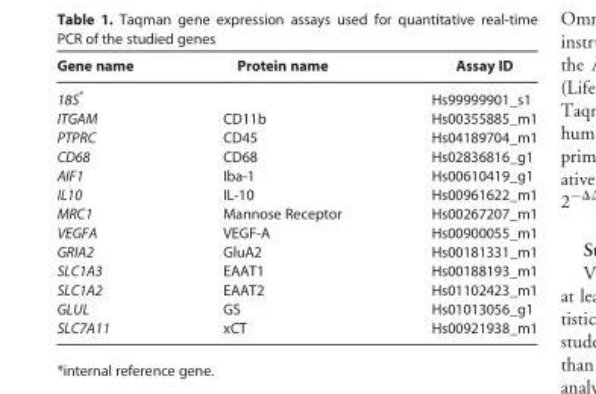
<table><thead><tr><td>Gene name</td><td>Protein name</td><td>Assay ID</td></tr></thead><tbody><tr><td>18S*</td><td></td><td>Hs99999901_s1</td></tr><tr><td>ITGAM</td><td>CD11b</td><td>Hs00355885_m1</td></tr><tr><td>PTPRC</td><td>CD45</td><td>Hs04189704_m1</td></tr><tr><td>CD68</td><td>CD68</td><td>Hs02836816_g1</td></tr><tr><td>AIF1</td><td>Iba-1</td><td>Hs00610419_g1</td></tr><tr><td>IL10</td><td>IL-10</td><td>Hs00961622_m1</td></tr><tr><td>MRC1</td><td>Mannose Receptor</td><td>Hs00267207_m1</td></tr><tr><td>VEGFA</td><td>VEGF-A</td><td>Hs00900055_m1</td></tr><tr><td>GRIA2</td><td>GluA2</td><td>Hs00181331_m1</td></tr><tr><td>SLC1A3</td><td>EAAT1</td><td>Hs00188193_m1</td></tr><tr><td>SLC1A2</td><td>EAAT2</td><td>Hs01102423_m1</td></tr><tr><td>GLUL</td><td>GS</td><td>Hs01013056_g1</td></tr><tr><td>SLC7A11</td><td>xCT</td><td>Hs00921938_m1</td></tr></tbody></table>